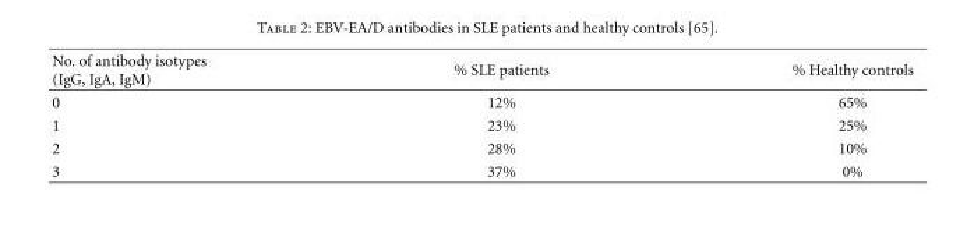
<table><thead><tr><td>No. of antibody isotypes (IgG, IgA, IgM)</td><td>% SLE patients</td><td>% Healthy controls</td></tr></thead><tbody><tr><td>0</td><td>12%</td><td>65%</td></tr><tr><td>1</td><td>23%</td><td>25%</td></tr><tr><td>2</td><td>28%</td><td>10%</td></tr><tr><td>3</td><td>37%</td><td>0%</td></tr></tbody></table>